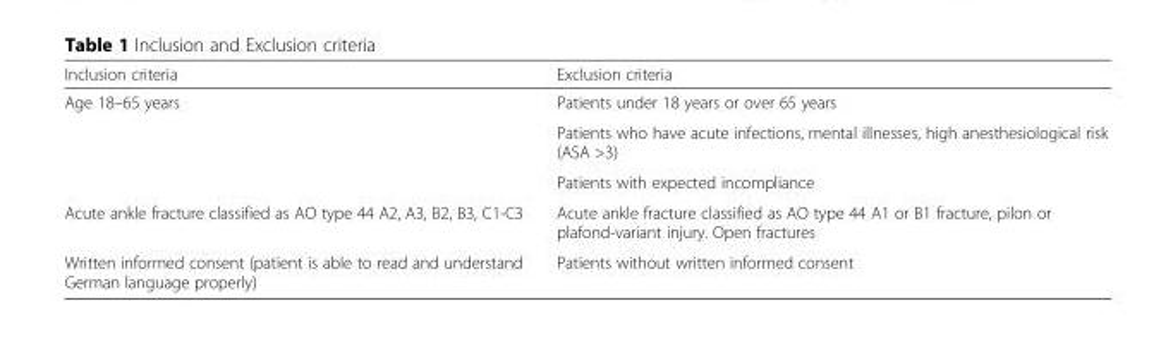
<table><thead><tr><td>Inclusion criteria</td><td>Exclusion criteria</td></tr></thead><tbody><tr><td rowspan="3">Age 18–65 years</td><td>Patients under 18 years or over 65 years</td></tr><tr><td>Patients who have acute infections, mental illnesses, high anesthesiological risk (ASA &gt;3)</td></tr><tr><td>Patients with expected incompliance</td></tr><tr><td>Acute ankle fracture classified as AO type 44 A2, A3, B2, B3, C1-C3</td><td>Acute ankle fracture classified as AO type 44 A1 or B1 fracture, pilon or plafond-variant injury. Open fractures</td></tr><tr><td>Written informed consent (patient is able to read and understand German language properly)</td><td>Patients without written informed consent</td></tr></tbody></table>